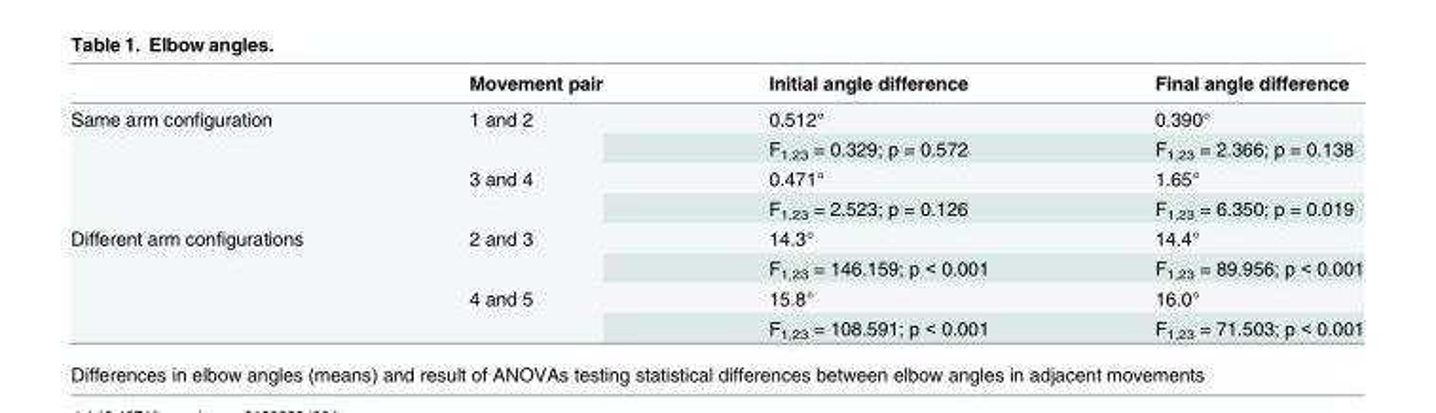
<table><thead><tr><td></td><td>Movement pair</td><td>Initial angle difference</td><td>Final angle difference</td></tr></thead><tbody><tr><td rowspan="4">Same arm configuration</td><td rowspan="2">1 and 2</td><td>0.512°</td><td>0.390°</td></tr><tr><td>F<sub>1,23</sub> = 0.329; p = 0.572</td><td>F<sub>1,23</sub> = 2.366; p = 0.138</td></tr><tr><td rowspan="2">3 and 4</td><td>0.471°</td><td>1.65°</td></tr><tr><td>F<sub>1,23</sub> = 2.523; p = 0.126</td><td>F<sub>1,23</sub> = 6.350; p = 0.019</td></tr><tr><td rowspan="4">Different arm configurations</td><td rowspan="2">2 and 3</td><td>14.3°</td><td>14.4°</td></tr><tr><td>F<sub>1,23</sub> = 146.159; p &lt; 0.001</td><td>F<sub>1,23</sub> = 89.956; p &lt; 0.001</td></tr><tr><td rowspan="2">4 and 5</td><td>15.8°</td><td>16.0°</td></tr><tr><td>F<sub>1,23</sub> = 108.591; p &lt; 0.001</td><td>F<sub>1,23</sub> = 71.503; p &lt; 0.001</td></tr></tbody></table>